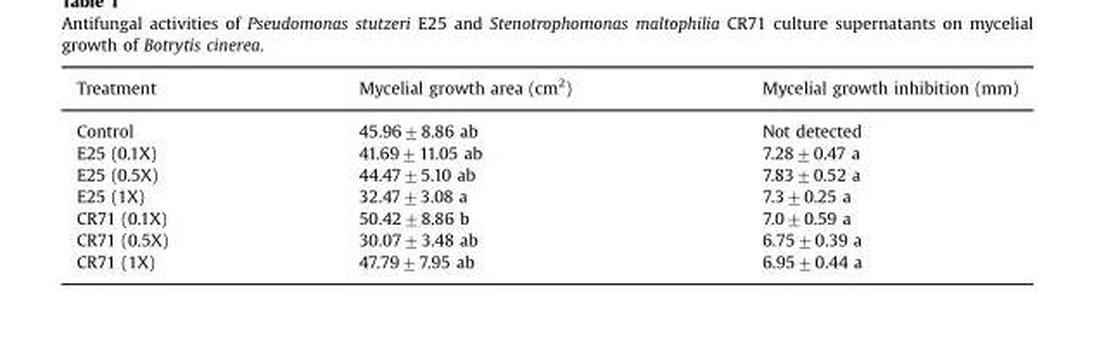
<table><thead><tr><td>Treatment</td><td>Mycelial growth area (cm<sup>2</sup>)</td><td>Mycelial growth inhibition (mm)</td></tr></thead><tbody><tr><td>Control</td><td>45.96±8.86 ab</td><td>Not detected</td></tr><tr><td>E25 (0.1X)</td><td>41.69±11.05 ab</td><td>7.28±0.47 a</td></tr><tr><td>E25 (0.5X)</td><td>44.47±5.10 ab</td><td>7.83±0.52 a</td></tr><tr><td>E25 (1X)</td><td>32.47±3.08 a</td><td>7.3±0.25 a</td></tr><tr><td>CR71 (0.1X)</td><td>50.42±8.86 b</td><td>7.0±0.59 a</td></tr><tr><td>CR71 (0.5X)</td><td>30.07±3.48 ab</td><td>6.75±0.39 a</td></tr><tr><td>CR71 (1X)</td><td>47.79±7.95 ab</td><td>6.95±0.44 a</td></tr></tbody></table>